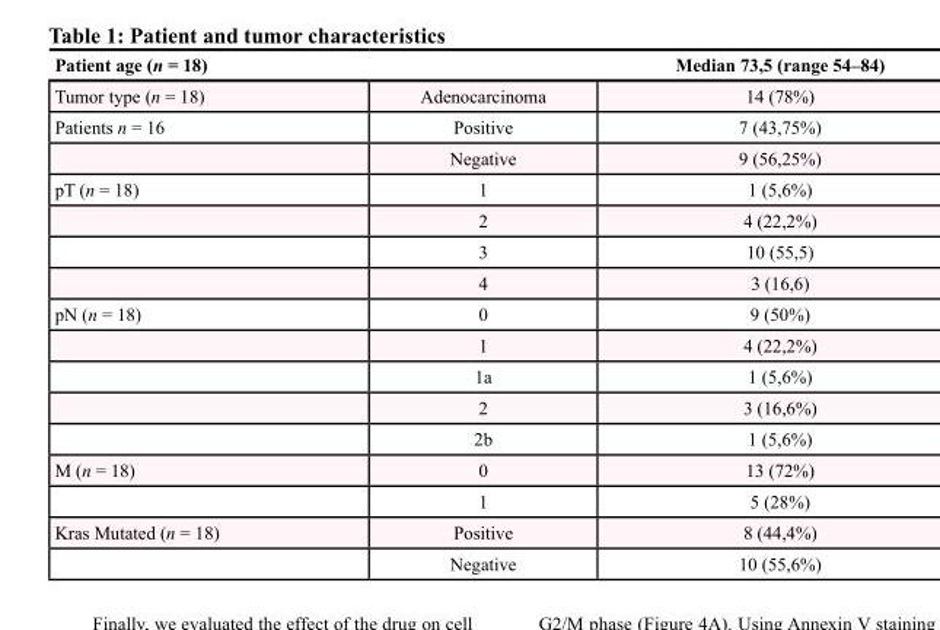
<table><thead><tr><td>Patient age (n = 18)</td><td></td><td>Median 73,5 (range 54–84)</td></tr></thead><tbody><tr><td>Tumor type (n = 18)</td><td>Adenocarcinoma</td><td>14 (78%)</td></tr><tr><td rowspan="2">Patients n = 16</td><td>Positive</td><td>7 (43,75%)</td></tr><tr><td>Negative</td><td>9 (56,25%)</td></tr><tr><td rowspan="4">pT (n = 18)</td><td>1</td><td>1 (5,6%)</td></tr><tr><td>2</td><td>4 (22,2%)</td></tr><tr><td>3</td><td>10 (55,5)</td></tr><tr><td>4</td><td>3 (16,6)</td></tr><tr><td rowspan="5">pN (n = 18)</td><td>0</td><td>9 (50%)</td></tr><tr><td>1</td><td>4 (22,2%)</td></tr><tr><td>1a</td><td>1 (5,6%)</td></tr><tr><td>2</td><td>3 (16,6%)</td></tr><tr><td>2b</td><td>1 (5,6%)</td></tr><tr><td rowspan="2">M (n = 18)</td><td>0</td><td>13 (72%)</td></tr><tr><td>1</td><td>5 (28%)</td></tr><tr><td rowspan="2">Kras Mutated (n = 18)</td><td>Positive</td><td>8 (44,4%)</td></tr><tr><td>Negative</td><td>10 (55,6%)</td></tr></tbody></table>